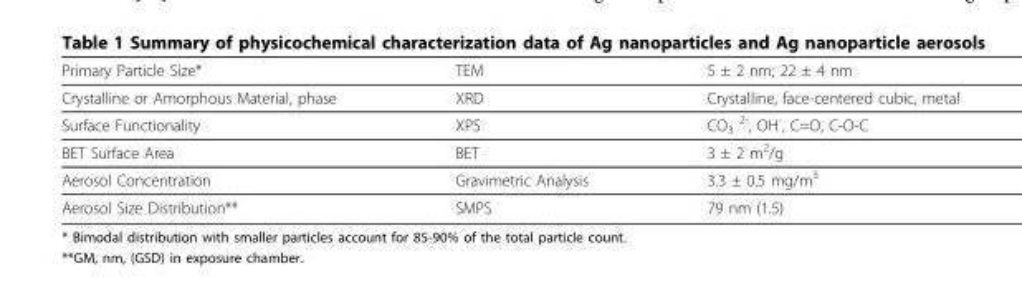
<table><thead><tr><td>Primary Particle Size*</td><td>TEM</td><td>5 ± 2 nm; 22 ± 4 nm</td></tr></thead><tbody><tr><td>Crystalline or Amorphous Material, phase</td><td>XRD</td><td>Crystalline, face-centered cubic, metal</td></tr><tr><td>Surface Functionality</td><td>XPS</td><td>CO<sub>3</sub> <sup>2-</sup>, OH<sup>-</sup>, C=O, C-O-C</td></tr><tr><td>BET Surface Area</td><td>BET</td><td>3 ± 2 m<sup>2</sup>/g</td></tr><tr><td>Aerosol Concentration</td><td>Gravimetric Analysis</td><td>3.3 ± 0.5 mg/m<sup>3</sup></td></tr><tr><td>Aerosol Size Distribution**</td><td>SMPS</td><td>79 nm (1.5)</td></tr></tbody></table>